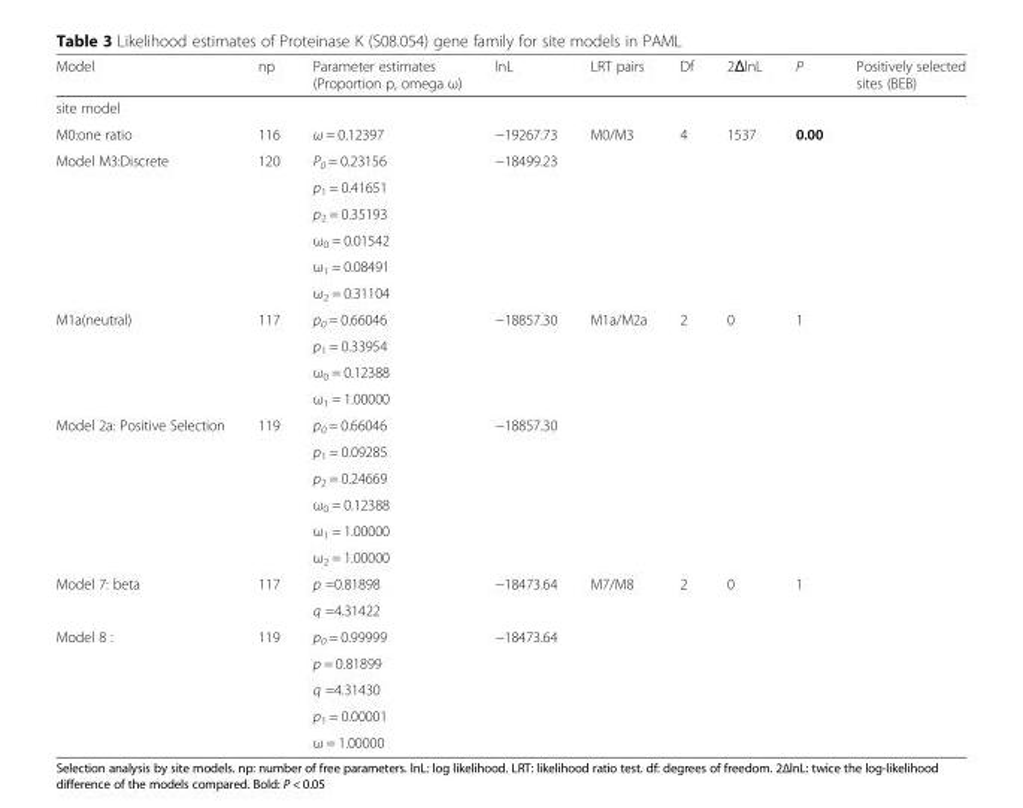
<table><thead><tr><td>Model</td><td>np</td><td>Parameter estimates (Proportion p, omega ω)</td><td>lnL</td><td>LRT pairs</td><td>Df</td><td>2ΔlnL</td><td>P</td><td>Positively selected sites (BEB)</td></tr></thead><tbody><tr><td colspan="9">site model</td></tr><tr><td>M0:one ratio</td><td>116</td><td>ω = 0.12397</td><td>−19267.73</td><td>M0/M3</td><td>4</td><td>1537</td><td>0.00</td><td></td></tr><tr><td rowspan="6">Model M3:Discrete</td><td rowspan="6">120</td><td>P<sub>0</sub> = 0.23156</td><td rowspan="6">−18499.23</td><td rowspan="6"></td><td rowspan="6"></td><td rowspan="6"></td><td rowspan="6"></td><td rowspan="6"></td></tr><tr><td>p<sub>1</sub> = 0.41651</td></tr><tr><td>p<sub>2</sub> = 0.35193</td></tr><tr><td>ω<sub>0</sub> = 0.01542</td></tr><tr><td>ω<sub>1</sub> = 0.08491</td></tr><tr><td>ω<sub>2</sub> = 0.31104</td></tr><tr><td rowspan="4">M1a(neutral)</td><td rowspan="4">117</td><td>p<sub>0</sub> = 0.66046</td><td rowspan="4">−18857.30</td><td rowspan="4">M1a/M2a</td><td rowspan="4">2</td><td rowspan="4">0</td><td rowspan="4">1</td><td rowspan="4"></td></tr><tr><td>p<sub>1</sub> = 0.33954</td></tr><tr><td>ω<sub>0</sub> = 0.12388</td></tr><tr><td>ω<sub>1</sub> = 1.00000</td></tr><tr><td rowspan="6">Model 2a: Positive Selection</td><td rowspan="6">119</td><td>p<sub>0</sub> = 0.66046</td><td rowspan="6">−18857.30</td><td rowspan="6"></td><td rowspan="6"></td><td rowspan="6"></td><td rowspan="6"></td><td rowspan="6"></td></tr><tr><td>p<sub>1</sub> = 0.09285</td></tr><tr><td>p<sub>2</sub> = 0.24669</td></tr><tr><td>ω<sub>0</sub> = 0.12388</td></tr><tr><td>ω<sub>1</sub> = 1.00000</td></tr><tr><td>ω<sub>2</sub> = 1.00000</td></tr><tr><td rowspan="2">Model 7: beta</td><td rowspan="2">117</td><td>p =0.81898</td><td rowspan="2">−18473.64</td><td rowspan="2">M7/M8</td><td rowspan="2">2</td><td rowspan="2">0</td><td rowspan="2">1</td><td rowspan="2"></td></tr><tr><td>q =4.31422</td></tr><tr><td rowspan="5">Model 8 :</td><td rowspan="5">119</td><td>p<sub>0</sub> = 0.99999</td><td rowspan="5">−18473.64</td><td rowspan="5"></td><td rowspan="5"></td><td rowspan="5"></td><td rowspan="5"></td><td rowspan="5"></td></tr><tr><td>p = 0.81899</td></tr><tr><td>q =4.31430</td></tr><tr><td>p<sub>1</sub> = 0.00001</td></tr><tr><td>ω = 1.00000</td></tr></tbody></table>